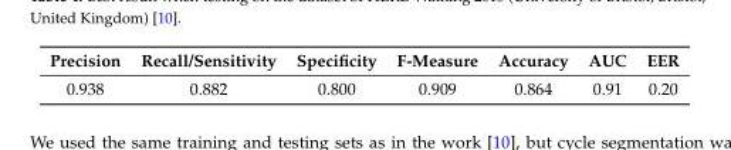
<table><thead><tr><td>Precision</td><td>Recall/Sensitivity</td><td>Specificity</td><td>F-Measure</td><td>Accuracy</td><td>AUC</td><td>EER</td></tr></thead><tbody><tr><td>0.938</td><td>0.882</td><td>0.800</td><td>0.909</td><td>0.864</td><td>0.91</td><td>0.20</td></tr></tbody></table>